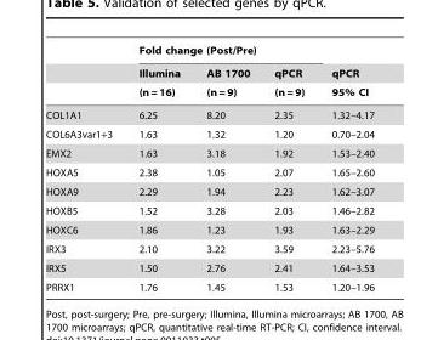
<table><thead><tr><td rowspan="3"></td><td colspan="3">Fold change (Post/Pre)</td><td rowspan="3">qPCR 95% CI</td></tr><tr><td rowspan="2">Illumina (n = 16)</td><td rowspan="2">AB 1700 (n = 9)</td><td rowspan="2">qPCR (n = 9)</td></tr><tr></tr></thead><tbody><tr><td>COL1A1</td><td>6.25</td><td>8.20</td><td>2.35</td><td>1.32–4.17</td></tr><tr><td>COL6A3var1+3</td><td>1.63</td><td>1.32</td><td>1.20</td><td>0.70–2.04</td></tr><tr><td>EMX2</td><td>1.63</td><td>3.18</td><td>1.92</td><td>1.53–2.40</td></tr><tr><td>HOXA5</td><td>2.38</td><td>1.05</td><td>2.07</td><td>1.65–2.60</td></tr><tr><td>HOXA9</td><td>2.29</td><td>1.94</td><td>2.23</td><td>1.62–3.07</td></tr><tr><td>HOXB5</td><td>1.52</td><td>3.28</td><td>2.03</td><td>1.46–2.82</td></tr><tr><td>HOXC6</td><td>1.86</td><td>1.23</td><td>1.93</td><td>1.63–2.29</td></tr><tr><td>IRX3</td><td>2.10</td><td>3.22</td><td>3.59</td><td>2.23–5.76</td></tr><tr><td>IRX5</td><td>1.50</td><td>2.76</td><td>2.41</td><td>1.64–3.53</td></tr><tr><td>PRRX1</td><td>1.76</td><td>1.45</td><td>1.53</td><td>1.20–1.96</td></tr></tbody></table>